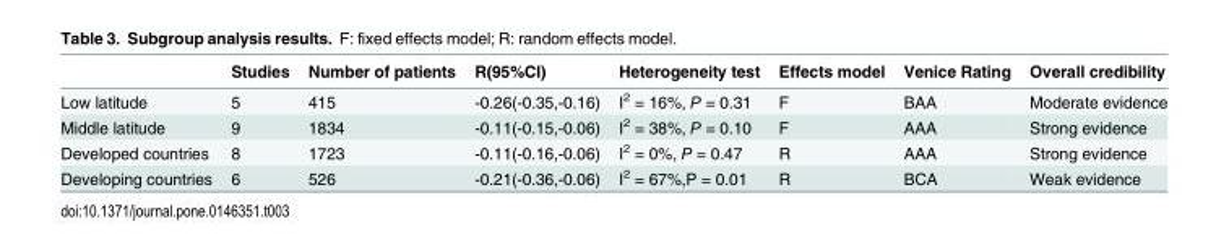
<table><thead><tr><td></td><td>Studies</td><td>Number of patients</td><td>R(95%CI)</td><td>Heterogeneity test</td><td>Effects model</td><td>Venice Rating</td><td>Overall credibility</td></tr></thead><tbody><tr><td>Low latitude</td><td>5</td><td>415</td><td>-0.26(-0.35,-0.16)</td><td>I<sup>2</sup> = 16%, P = 0.31</td><td>F</td><td>BAA</td><td>Moderate evidence</td></tr><tr><td>Middle latitude</td><td>9</td><td>1834</td><td>-0.11(-0.15,-0.06)</td><td>I<sup>2</sup> = 38%, P = 0.10</td><td>F</td><td>AAA</td><td>Strong evidence</td></tr><tr><td>Developed countries</td><td>8</td><td>1723</td><td>-0.11(-0.16,-0.06)</td><td>I<sup>2</sup> = 0%, P = 0.47</td><td>R</td><td>AAA</td><td>Strong evidence</td></tr><tr><td>Developing countries</td><td>6</td><td>526</td><td>-0.21(-0.36,-0.06)</td><td>I<sup>2</sup> = 67%,P = 0.01</td><td>R</td><td>BCA</td><td>Weak evidence</td></tr></tbody></table>